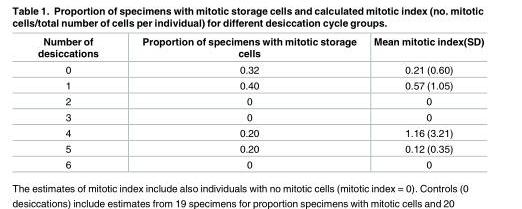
<table><thead><tr><td>Number of desiccations</td><td>Proportion of specimens with mitotic storage cells</td><td>Mean mitotic index(SD)</td></tr></thead><tbody><tr><td>0</td><td>0.32</td><td>0.21 (0.60)</td></tr><tr><td>1</td><td>0.40</td><td>0.57 (1.05)</td></tr><tr><td>2</td><td>0</td><td>0</td></tr><tr><td>3</td><td>0</td><td>0</td></tr><tr><td>4</td><td>0.20</td><td>1.16 (3.21)</td></tr><tr><td>5</td><td>0.20</td><td>0.12 (0.35)</td></tr><tr><td>6</td><td>0</td><td>0</td></tr></tbody></table>